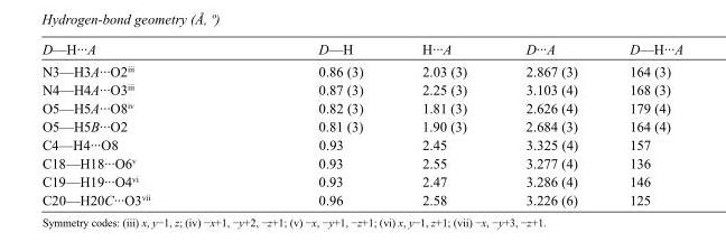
<table><tbody><tr><td>D—H···A</td><td>D—H</td><td>H···A</td><td>D···A</td><td>D—H···A</td></tr><tr><td>N3—H3A···O2<sup>iii</sup></td><td>0.86 (3)</td><td>2.03 (3)</td><td>2.867 (3)</td><td>164 (3)</td></tr><tr><td>N4—H4A···O3<sup>iii</sup></td><td>0.87 (3)</td><td>2.25 (3)</td><td>3.103 (4)</td><td>168 (3)</td></tr><tr><td>O5—H5A···O8<sup>iv</sup></td><td>0.82 (3)</td><td>1.81 (3)</td><td>2.626 (4)</td><td>179 (4)</td></tr><tr><td>O5—H5B···O2</td><td>0.81 (3)</td><td>1.90 (3)</td><td>2.684 (3)</td><td>164 (4)</td></tr><tr><td>C4—H4···O8</td><td>0.93</td><td>2.45</td><td>3.325 (4)</td><td>157</td></tr><tr><td>C18—H18···O6<sup>v</sup></td><td>0.93</td><td>2.55</td><td>3.277 (4)</td><td>136</td></tr><tr><td>C19—H19···O4<sup>vi</sup></td><td>0.93</td><td>2.47</td><td>3.286 (4)</td><td>146</td></tr><tr><td>C20—H20C···O3<sup>vii</sup></td><td>0.96</td><td>2.58</td><td>3.226 (6)</td><td>125</td></tr></tbody></table>